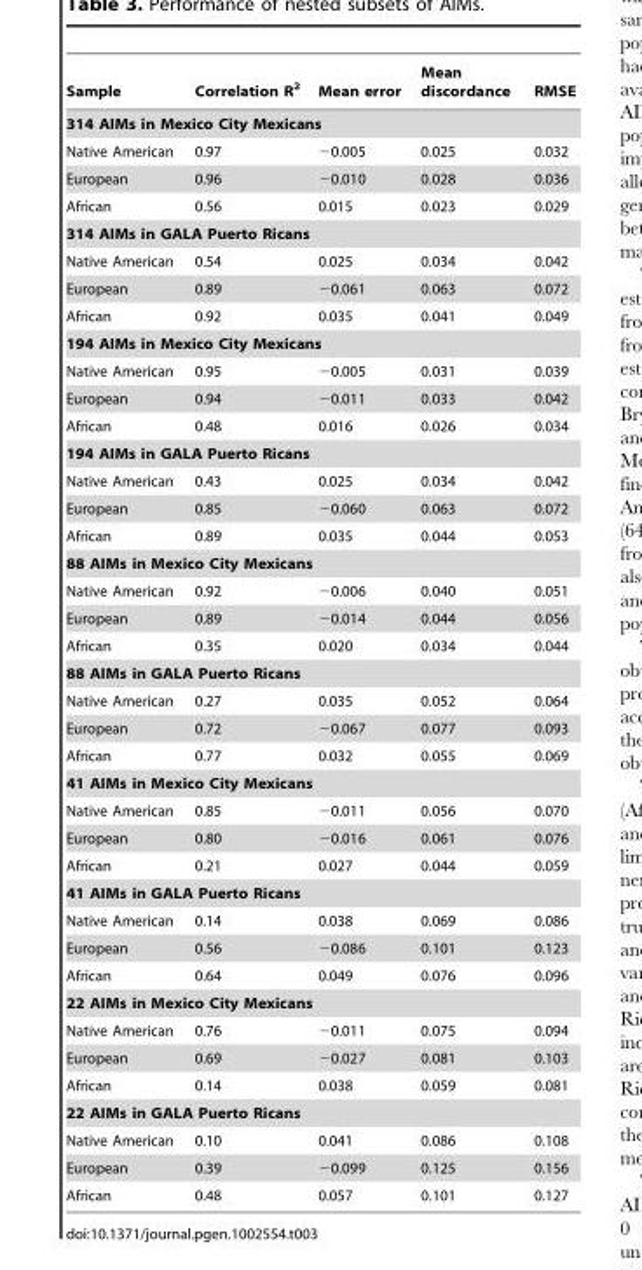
<table><thead><tr><td>Sample</td><td>Correlation R<sup>2</sup></td><td>Mean error</td><td>Mean discordance</td><td>RMSE</td></tr></thead><tbody><tr><td colspan="5">314 AIMs in Mexico City Mexicans</td></tr><tr><td>Native American</td><td>0.97</td><td>−0.005</td><td>0.025</td><td>0.032</td></tr><tr><td>European</td><td>0.96</td><td>−0.010</td><td>0.028</td><td>0.036</td></tr><tr><td>African</td><td>0.56</td><td>0.015</td><td>0.023</td><td>0.029</td></tr><tr><td colspan="5">314 AIMs in GALA Puerto Ricans</td></tr><tr><td>Native American</td><td>0.54</td><td>0.025</td><td>0.034</td><td>0.042</td></tr><tr><td>European</td><td>0.89</td><td>−0.061</td><td>0.063</td><td>0.072</td></tr><tr><td>African</td><td>0.92</td><td>0.035</td><td>0.041</td><td>0.049</td></tr><tr><td colspan="5">194 AIMs in Mexico City Mexicans</td></tr><tr><td>Native American</td><td>0.95</td><td>−0.005</td><td>0.031</td><td>0.039</td></tr><tr><td>European</td><td>0.94</td><td>−0.011</td><td>0.033</td><td>0.042</td></tr><tr><td>African</td><td>0.48</td><td>0.016</td><td>0.026</td><td>0.034</td></tr><tr><td colspan="5">194 AIMs in GALA Puerto Ricans</td></tr><tr><td>Native American</td><td>0.43</td><td>0.025</td><td>0.034</td><td>0.042</td></tr><tr><td>European</td><td>0.85</td><td>−0.060</td><td>0.063</td><td>0.072</td></tr><tr><td>African</td><td>0.89</td><td>0.035</td><td>0.044</td><td>0.053</td></tr><tr><td colspan="5">88 AIMs in Mexico City Mexicans</td></tr><tr><td>Native American</td><td>0.92</td><td>−0.006</td><td>0.040</td><td>0.051</td></tr><tr><td>European</td><td>0.89</td><td>−0.014</td><td>0.044</td><td>0.056</td></tr><tr><td>African</td><td>0.35</td><td>0.020</td><td>0.034</td><td>0.044</td></tr><tr><td colspan="5">88 AIMs in GALA Puerto Ricans</td></tr><tr><td>Native American</td><td>0.27</td><td>0.035</td><td>0.052</td><td>0.064</td></tr><tr><td>European</td><td>0.72</td><td>−0.067</td><td>0.077</td><td>0.093</td></tr><tr><td>African</td><td>0.77</td><td>0.032</td><td>0.055</td><td>0.069</td></tr><tr><td colspan="5">41 AIMs in Mexico City Mexicans</td></tr><tr><td>Native American</td><td>0.85</td><td>−0.011</td><td>0.056</td><td>0.070</td></tr><tr><td>European</td><td>0.80</td><td>−0.016</td><td>0.061</td><td>0.076</td></tr><tr><td>African</td><td>0.21</td><td>0.027</td><td>0.044</td><td>0.059</td></tr><tr><td colspan="5">41 AIMs in GALA Puerto Ricans</td></tr><tr><td>Native American</td><td>0.14</td><td>0.038</td><td>0.069</td><td>0.086</td></tr><tr><td>European</td><td>0.56</td><td>−0.086</td><td>0.101</td><td>0.123</td></tr><tr><td>African</td><td>0.64</td><td>0.049</td><td>0.076</td><td>0.096</td></tr><tr><td colspan="5">22 AIMs in Mexico City Mexicans</td></tr><tr><td>Native American</td><td>0.76</td><td>−0.011</td><td>0.075</td><td>0.094</td></tr><tr><td>European</td><td>0.69</td><td>−0.027</td><td>0.081</td><td>0.103</td></tr><tr><td>African</td><td>0.14</td><td>0.038</td><td>0.059</td><td>0.081</td></tr><tr><td colspan="5">22 AIMs in GALA Puerto Ricans</td></tr><tr><td>Native American</td><td>0.10</td><td>0.041</td><td>0.086</td><td>0.108</td></tr><tr><td>European</td><td>0.39</td><td>−0.099</td><td>0.125</td><td>0.156</td></tr><tr><td>African</td><td>0.48</td><td>0.057</td><td>0.101</td><td>0.127</td></tr></tbody></table>